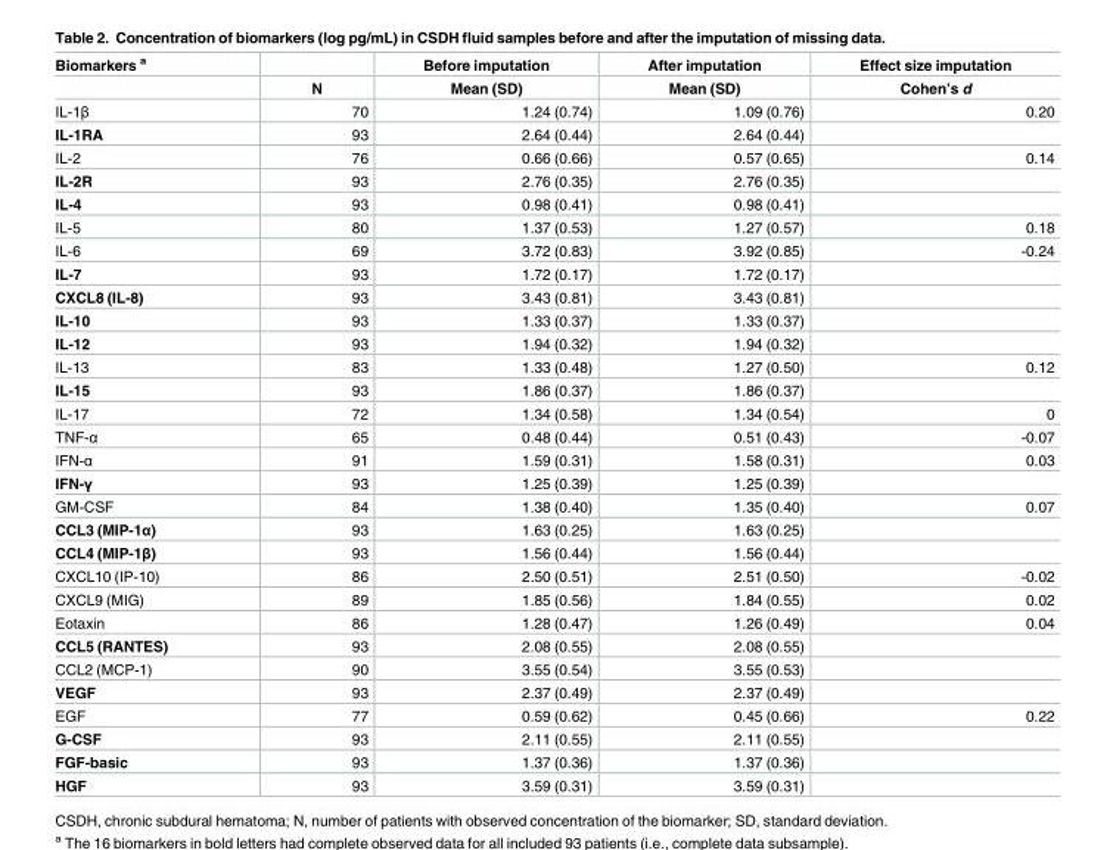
<table><thead><tr><td rowspan="2">Biomarkers <sup>a</sup></td><td rowspan="2">N</td><td rowspan="2">Before imputation Mean (SD)</td><td rowspan="2">After imputation Mean (SD)</td><td rowspan="2">Effect size imputation Cohen’s d</td></tr><tr></tr></thead><tbody><tr><td>IL-1β</td><td>70</td><td>1.24 (0.74)</td><td>1.09 (0.76)</td><td>0.20</td></tr><tr><td>IL-1RA</td><td>93</td><td>2.64 (0.44)</td><td>2.64 (0.44)</td><td></td></tr><tr><td>IL-2</td><td>76</td><td>0.66 (0.66)</td><td>0.57 (0.65)</td><td>0.14</td></tr><tr><td>IL-2R</td><td>93</td><td>2.76 (0.35)</td><td>2.76 (0.35)</td><td></td></tr><tr><td>IL-4</td><td>93</td><td>0.98 (0.41)</td><td>0.98 (0.41)</td><td></td></tr><tr><td>IL-5</td><td>80</td><td>1.37 (0.53)</td><td>1.27 (0.57)</td><td>0.18</td></tr><tr><td>IL-6</td><td>69</td><td>3.72 (0.83)</td><td>3.92 (0.85)</td><td>-0.24</td></tr><tr><td>IL-7</td><td>93</td><td>1.72 (0.17)</td><td>1.72 (0.17)</td><td></td></tr><tr><td>CXCL8 (IL-8)</td><td>93</td><td>3.43 (0.81)</td><td>3.43 (0.81)</td><td></td></tr><tr><td>IL-10</td><td>93</td><td>1.33 (0.37)</td><td>1.33 (0.37)</td><td></td></tr><tr><td>IL-12</td><td>93</td><td>1.94 (0.32)</td><td>1.94 (0.32)</td><td></td></tr><tr><td>IL-13</td><td>83</td><td>1.33 (0.48)</td><td>1.27 (0.50)</td><td>0.12</td></tr><tr><td>IL-15</td><td>93</td><td>1.86 (0.37)</td><td>1.86 (0.37)</td><td></td></tr><tr><td>IL-17</td><td>72</td><td>1.34 (0.58)</td><td>1.34 (0.54)</td><td>0</td></tr><tr><td>TNF-α</td><td>65</td><td>0.48 (0.44)</td><td>0.51 (0.43)</td><td>-0.07</td></tr><tr><td>IFN-α</td><td>91</td><td>1.59 (0.31)</td><td>1.58 (0.31)</td><td>0.03</td></tr><tr><td>IFN-γ</td><td>93</td><td>1.25 (0.39)</td><td>1.25 (0.39)</td><td></td></tr><tr><td>GM-CSF</td><td>84</td><td>1.38 (0.40)</td><td>1.35 (0.40)</td><td>0.07</td></tr><tr><td>CCL3 (MIP-1α)</td><td>93</td><td>1.63 (0.25)</td><td>1.63 (0.25)</td><td></td></tr><tr><td>CCL4 (MIP-1β)</td><td>93</td><td>1.56 (0.44)</td><td>1.56 (0.44)</td><td></td></tr><tr><td>CXCL10 (IP-10)</td><td>86</td><td>2.50 (0.51)</td><td>2.51 (0.50)</td><td>-0.02</td></tr><tr><td>CXCL9 (MIG)</td><td>89</td><td>1.85 (0.56)</td><td>1.84 (0.55)</td><td>0.02</td></tr><tr><td>Eotaxin</td><td>86</td><td>1.28 (0.47)</td><td>1.26 (0.49)</td><td>0.04</td></tr><tr><td>CCL5 (RANTES)</td><td>93</td><td>2.08 (0.55)</td><td>2.08 (0.55)</td><td></td></tr><tr><td>CCL2 (MCP-1)</td><td>90</td><td>3.55 (0.54)</td><td>3.55 (0.53)</td><td></td></tr><tr><td>VEGF</td><td>93</td><td>2.37 (0.49)</td><td>2.37 (0.49)</td><td></td></tr><tr><td>EGF</td><td>77</td><td>0.59 (0.62)</td><td>0.45 (0.66)</td><td>0.22</td></tr><tr><td>G-CSF</td><td>93</td><td>2.11 (0.55)</td><td>2.11 (0.55)</td><td></td></tr><tr><td>FGF-basic</td><td>93</td><td>1.37 (0.36)</td><td>1.37 (0.36)</td><td></td></tr><tr><td>HGF</td><td>93</td><td>3.59 (0.31)</td><td>3.59 (0.31)</td><td></td></tr></tbody></table>